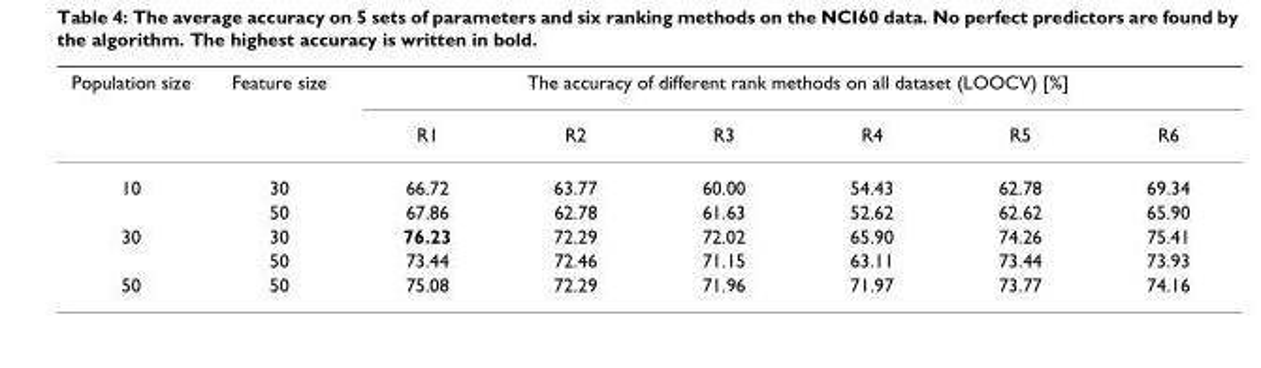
<table><thead><tr><td rowspan="2">Population size</td><td rowspan="2">Feature size</td><td colspan="6">The accuracy of different rank methods on all dataset (LOOCV) [%]</td></tr><tr><td>R1</td><td>R2</td><td>R3</td><td>R4</td><td>R5</td><td>R6</td></tr></thead><tbody><tr><td rowspan="2">10</td><td>30</td><td>66.72</td><td>63.77</td><td>60.00</td><td>54.43</td><td>62.78</td><td>69.34</td></tr><tr><td>50</td><td>67.86</td><td>62.78</td><td>61.63</td><td>52.62</td><td>62.62</td><td>65.90</td></tr><tr><td rowspan="2">30</td><td>30</td><td>76.23</td><td>72.29</td><td>72.02</td><td>65.90</td><td>74.26</td><td>75.41</td></tr><tr><td>50</td><td>73.44</td><td>72.46</td><td>71.15</td><td>63.11</td><td>73.44</td><td>73.93</td></tr><tr><td>50</td><td>50</td><td>75.08</td><td>72.29</td><td>71.96</td><td>71.97</td><td>73.77</td><td>74.16</td></tr></tbody></table>